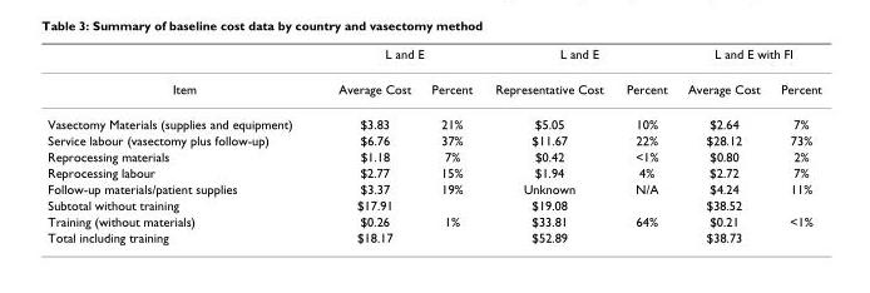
<table><thead><tr><td rowspan="2">Item</td><td colspan="2">L and E</td><td colspan="2">L and E</td><td colspan="2">L and E with FI</td></tr><tr><td>Average Cost</td><td>Percent</td><td>Representative Cost</td><td>Percent</td><td>Average Cost</td><td>Percent</td></tr></thead><tbody><tr><td>Vasectomy Materials (supplies and equipment)</td><td>$3.83</td><td>21%</td><td>$5.05</td><td>10%</td><td>$2.64</td><td>7%</td></tr><tr><td>Service labour (vasectomy plus follow-up)</td><td>$6.76</td><td>37%</td><td>$11.67</td><td>22%</td><td>$28.12</td><td>73%</td></tr><tr><td>Reprocessing materials</td><td>$1.18</td><td>7%</td><td>$0.42</td><td>&lt;1%</td><td>$0.80</td><td>2%</td></tr><tr><td>Reprocessing labour</td><td>$2.77</td><td>15%</td><td>$1.94</td><td>4%</td><td>$2.72</td><td>7%</td></tr><tr><td>Follow-up materials/patient supplies</td><td>$3.37</td><td>19%</td><td>Unknown</td><td>N/A</td><td>$4.24</td><td>11%</td></tr><tr><td>Subtotal without training</td><td>$17.91</td><td></td><td>$19.08</td><td></td><td>$38.52</td><td></td></tr><tr><td>Training (without materials)</td><td>$0.26</td><td>1%</td><td>$33.81</td><td>64%</td><td>$0.21</td><td>&lt;1%</td></tr><tr><td>Total including training</td><td>$18.17</td><td></td><td>$52.89</td><td></td><td>$38.73</td><td></td></tr></tbody></table>